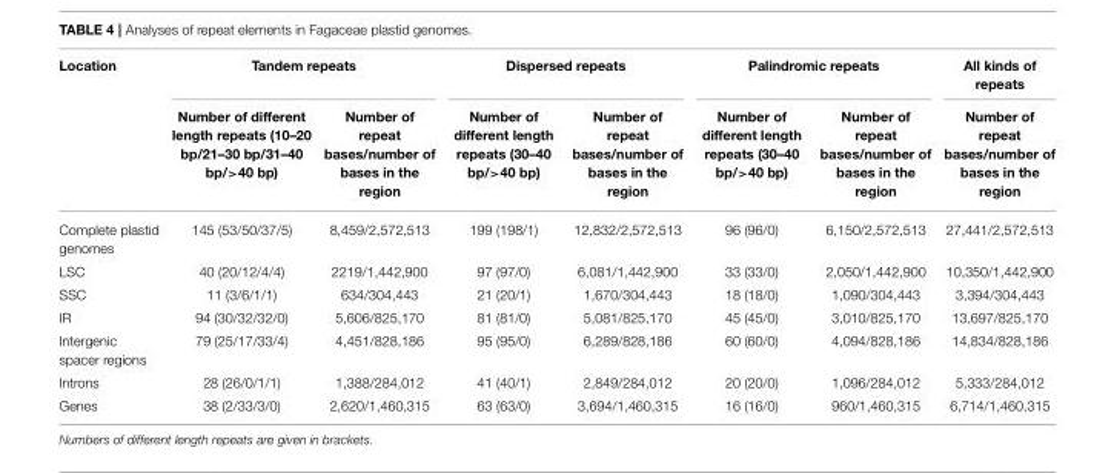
<table><thead><tr><td rowspan="2">Location</td><td colspan="2">Tandem repeats</td><td colspan="2">Dispersed repeats</td><td colspan="2">Palindromic repeats</td><td rowspan="2">All kinds of repeats Number of repeat bases/number of bases in the region</td></tr><tr><td>Number of different length repeats (10–20 bp/21–30 bp/31–40 bp/&gt;40 bp)</td><td>Number of repeat bases/number of bases in the region</td><td>Number of different length repeats (30–40 bp/&gt;40 bp)</td><td>Number of repeat bases/number of bases in the region</td><td>Number of different length repeats (30–40 bp/&gt;40 bp)</td><td>Number of repeat bases/number of bases in the region</td></tr></thead><tbody><tr><td>Complete plastid genomes</td><td>145 (53/50/37/5)</td><td>8,459/2,572,513</td><td>199 (198/1)</td><td>12,832/2,572,513</td><td>96 (96/0)</td><td>6,150/2,572,513</td><td>27,441/2,572,513</td></tr><tr><td>LSC</td><td>40 (20/12/4/4)</td><td>2219/1,442,900</td><td>97 (97/0)</td><td>6,081/1,442,900</td><td>33 (33/0)</td><td>2,050/1,442,900</td><td>10,350/1,442,900</td></tr><tr><td>SSC</td><td>11 (3/6/1/1)</td><td>634/304,443</td><td>21 (20/1)</td><td>1,670/304,443</td><td>18 (18/0)</td><td>1,090/304,443</td><td>3,394/304,443</td></tr><tr><td>IR</td><td>94 (30/32/32/0)</td><td>5,606/825,170</td><td>81 (81/0)</td><td>5,081/825,170</td><td>45 (45/0)</td><td>3,010/825,170</td><td>13,697/825,170</td></tr><tr><td>Intergenic spacer regions</td><td>79 (25/17/33/4)</td><td>4,451/828,186</td><td>95 (95/0)</td><td>6,289/828,186</td><td>60 (60/0)</td><td>4,094/828,186</td><td>14,834/828,186</td></tr><tr><td>Introns</td><td>28 (26/0/1/1)</td><td>1,388/284,012</td><td>41 (40/1)</td><td>2,849/284,012</td><td>20 (20/0)</td><td>1,096/284,012</td><td>5,333/284,012</td></tr><tr><td>Genes</td><td>38 (2/33/3/0)</td><td>2,620/1,460,315</td><td>63 (63/0)</td><td>3,694/1,460,315</td><td>16 (16/0)</td><td>960/1,460,315</td><td>6,714/1,460,315</td></tr></tbody></table>